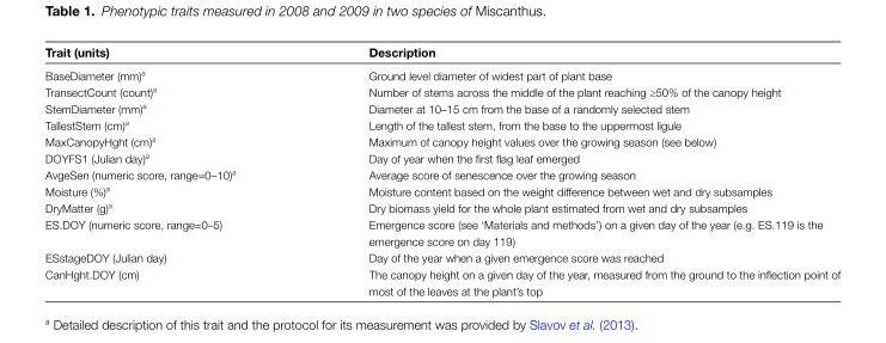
<table><thead><tr><td>Trait (units)</td><td>Description</td></tr></thead><tbody><tr><td>BaseDiameter (mm)<sup>a</sup></td><td>Ground level diameter of widest part of plant base</td></tr><tr><td>TransectCount (count)<sup>a</sup></td><td>Number of stems across the middle of the plant reaching ≥50% of the canopy height</td></tr><tr><td>StemDiameter (mm)<sup>a</sup></td><td>Diameter at 10–15 cm from the base of a randomly selected stem</td></tr><tr><td>TallestStem (cm)<sup>a</sup></td><td>Length of the tallest stem, from the base to the uppermost ligule</td></tr><tr><td>MaxCanopyHght (cm)<sup>a</sup></td><td>Maximum of canopy height values over the growing season (see below)</td></tr><tr><td>DOYFS1 (Julian day)<sup>a</sup></td><td>Day of year when the first flag leaf emerged</td></tr><tr><td>AvgeSen (numeric score, range=0–10)<sup>a</sup></td><td>Average score of senescence over the growing season</td></tr><tr><td>Moisture (%)<sup>a</sup></td><td>Moisture content based on the weight difference between wet and dry subsamples</td></tr><tr><td>DryMatter (g)<sup>a</sup></td><td>Dry biomass yield for the whole plant estimated from wet and dry subsamples</td></tr><tr><td>ES.DOY (numeric score, range=0–5)</td><td>Emergence score (see ‘Materials and methods’) on a given day of the year (e.g. ES.119 is the emergence score on day 119)</td></tr><tr><td>ESstageDOY (Julian day)</td><td>Day of the year when a given emergence score was reached</td></tr><tr><td>CanHght.DOY (cm)</td><td>The canopy height on a given day of the year, measured from the ground to the inflection point of most of the leaves at the plant’s top</td></tr></tbody></table>